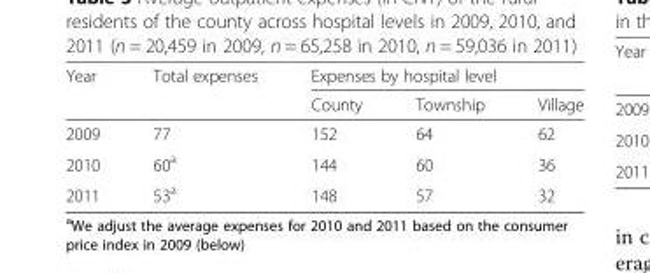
<table><thead><tr><td rowspan="2">Year</td><td rowspan="2">Total expenses</td><td colspan="3">Expenses by hospital level</td></tr><tr><td>County</td><td>Township</td><td>Village</td></tr></thead><tbody><tr><td>2009</td><td>77</td><td>152</td><td>64</td><td>62</td></tr><tr><td>2010</td><td>60<sup>a</sup></td><td>144</td><td>60</td><td>36</td></tr><tr><td>2011</td><td>53<sup>a</sup></td><td>148</td><td>57</td><td>32</td></tr></tbody></table>